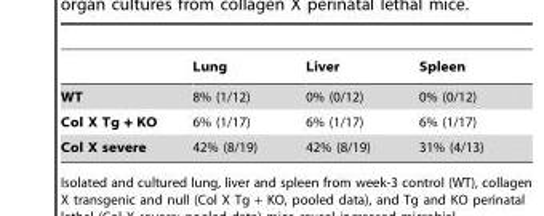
<table><thead><tr><td></td><td>Lung</td><td>Liver</td><td>Spleen</td></tr></thead><tbody><tr><td>WT</td><td>8% (1/12)</td><td>0% (0/12)</td><td>0% (0/12)</td></tr><tr><td>Col X Tg + KO</td><td>6% (1/17)</td><td>6% (1/17)</td><td>6% (1/17)</td></tr><tr><td>Col X severe</td><td>42% (8/19)</td><td>42% (8/19)</td><td>31% (4/13)</td></tr></tbody></table>